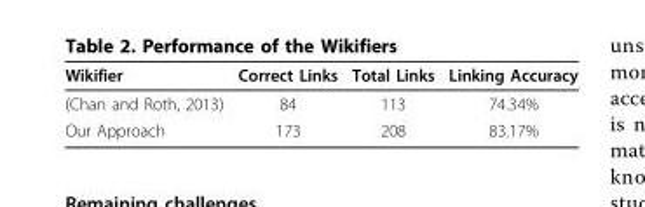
<table><thead><tr><td>Wikifier</td><td>Correct Links</td><td>Total Links</td><td>Linking Accuracy</td></tr></thead><tbody><tr><td>(Chan and Roth, 2013)</td><td>84</td><td>113</td><td>74.34%</td></tr><tr><td>Our Approach</td><td>173</td><td>208</td><td>83.17%</td></tr></tbody></table>